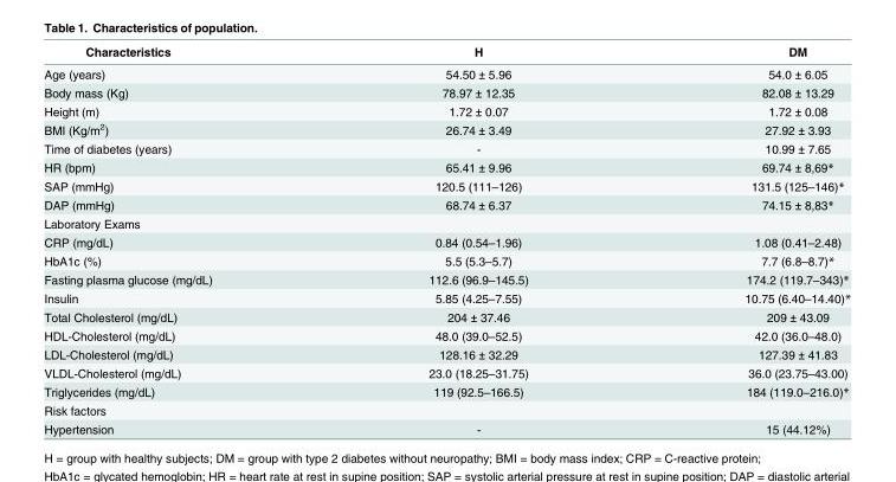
<table><thead><tr><td>Characteristics</td><td>H</td><td>DM</td></tr></thead><tbody><tr><td>Age (years)</td><td>54.50 ± 5.96</td><td>54.0 ± 6.05</td></tr><tr><td>Body mass (Kg)</td><td>78.97 ± 12.35</td><td>82.08 ± 13.29</td></tr><tr><td>Height (m)</td><td>1.72 ± 0.07</td><td>1.72 ± 0.08</td></tr><tr><td>BMI (Kg/m<sup>2</sup>)</td><td>26.74 ± 3.49</td><td>27.92 ± 3.93</td></tr><tr><td>Time of diabetes (years)</td><td>-</td><td>10.99 ± 7.65</td></tr><tr><td>HR (bpm)</td><td>65.41 ± 9.96</td><td>69.74 ± 8,69*</td></tr><tr><td>SAP (mmHg)</td><td>120.5 (111–126)</td><td>131.5 (125–146)*</td></tr><tr><td>DAP (mmHg)</td><td>68.74 ± 6.37</td><td>74.15 ± 8,83*</td></tr><tr><td colspan="3">Laboratory Exams</td></tr><tr><td>CRP (mg/dL)</td><td>0.84 (0.54–1.96)</td><td>1.08 (0.41–2.48)</td></tr><tr><td>HbA1c (%)</td><td>5.5 (5.3–5.7)</td><td>7.7 (6.8–8.7)*</td></tr><tr><td>Fasting plasma glucose (mg/dL)</td><td>112.6 (96.9–145.5)</td><td>174.2 (119.7–343)*</td></tr><tr><td>Insulin</td><td>5.85 (4.25–7.55)</td><td>10.75 (6.40–14.40)*</td></tr><tr><td>Total Cholesterol (mg/dL)</td><td>204 ± 37.46</td><td>209 ± 43.09</td></tr><tr><td>HDL-Cholesterol (mg/dL)</td><td>48.0 (39.0–52.5)</td><td>42.0 (36.0–48.0)</td></tr><tr><td>LDL-Cholesterol (mg/dL)</td><td>128.16 ± 32.29</td><td>127.39 ± 41.83</td></tr><tr><td>VLDL-Cholesterol (mg/dL)</td><td>23.0 (18.25–31.75)</td><td>36.0 (23.75–43.00)</td></tr><tr><td>Triglycerides (mg/dL)</td><td>119 (92.5–166.5)</td><td>184 (119.0–216.0)*</td></tr><tr><td colspan="3">Risk factors</td></tr><tr><td>Hypertension</td><td>-</td><td>15 (44.12%)</td></tr></tbody></table>